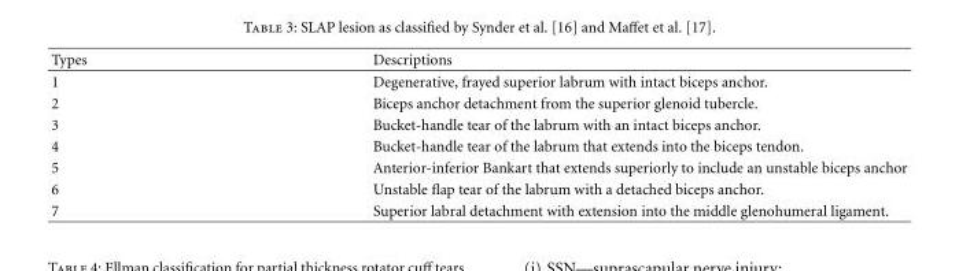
<table><thead><tr><td>Types</td><td>Descriptions</td></tr></thead><tbody><tr><td>1</td><td>Degenerative, frayed superior labrum with intact biceps anchor.</td></tr><tr><td>2</td><td>Biceps anchor detachment from the superior glenoid tubercle.</td></tr><tr><td>3</td><td>Bucket-handle tear of the labrum with an intact biceps anchor.</td></tr><tr><td>4</td><td>Bucket-handle tear of the labrum that extends into the biceps tendon.</td></tr><tr><td>5</td><td>Anterior-inferior Bankart that extends superiorly to include an unstable biceps anchor</td></tr><tr><td>6</td><td>Unstable flap tear of the labrum with a detached biceps anchor.</td></tr><tr><td>7</td><td>Superior labral detachment with extension into the middle glenohumeral ligament.</td></tr></tbody></table>